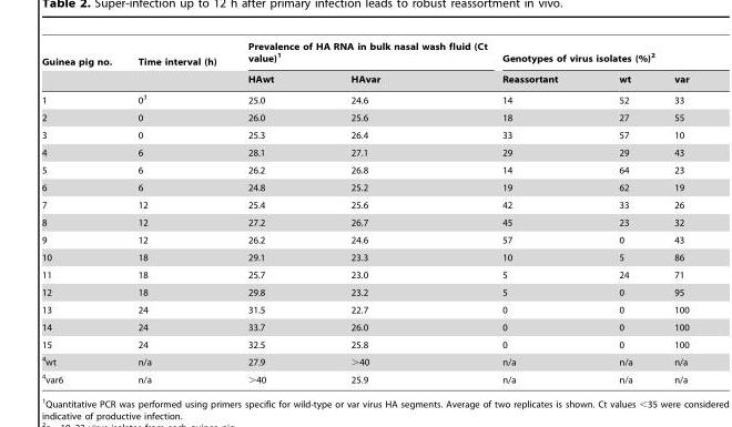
<table><thead><tr><td rowspan="2">Guinea pig no.</td><td rowspan="2">Time interval (h)</td><td colspan="2">Prevalence of HA RNA in bulk nasal wash fluid (Ct value)<sup>1</sup></td><td colspan="3">Genotypes of virus isolates (%)<sup>2</sup></td></tr><tr><td>HAwt</td><td>HAvar</td><td>Reassortant</td><td>wt</td><td>var</td></tr></thead><tbody><tr><td>1</td><td>0<sup>3</sup></td><td>25.0</td><td>24.6</td><td>14</td><td>52</td><td>33</td></tr><tr><td>2</td><td>0</td><td>26.0</td><td>25.6</td><td>18</td><td>27</td><td>55</td></tr><tr><td>3</td><td>0</td><td>25.3</td><td>26.4</td><td>33</td><td>57</td><td>10</td></tr><tr><td>4</td><td>6</td><td>28.1</td><td>27.1</td><td>29</td><td>29</td><td>43</td></tr><tr><td>5</td><td>6</td><td>26.2</td><td>26.8</td><td>14</td><td>64</td><td>23</td></tr><tr><td>6</td><td>6</td><td>24.8</td><td>25.2</td><td>19</td><td>62</td><td>19</td></tr><tr><td>7</td><td>12</td><td>25.4</td><td>25.6</td><td>42</td><td>33</td><td>26</td></tr><tr><td>8</td><td>12</td><td>27.2</td><td>26.7</td><td>45</td><td>23</td><td>32</td></tr><tr><td>9</td><td>12</td><td>26.2</td><td>24.6</td><td>57</td><td>0</td><td>43</td></tr><tr><td>10</td><td>18</td><td>29.1</td><td>23.3</td><td>10</td><td>5</td><td>86</td></tr><tr><td>11</td><td>18</td><td>25.7</td><td>23.0</td><td>5</td><td>24</td><td>71</td></tr><tr><td>12</td><td>18</td><td>29.8</td><td>23.2</td><td>5</td><td>0</td><td>95</td></tr><tr><td>13</td><td>24</td><td>31.5</td><td>22.7</td><td>0</td><td>0</td><td>100</td></tr><tr><td>14</td><td>24</td><td>33.7</td><td>26.0</td><td>0</td><td>0</td><td>100</td></tr><tr><td>15</td><td>24</td><td>32.5</td><td>25.8</td><td>0</td><td>0</td><td>100</td></tr><tr><td>4wt</td><td>n/a</td><td>27.9</td><td>&gt;40</td><td>n/a</td><td>n/a</td><td>n/a</td></tr><tr><td>4var6</td><td>n/a</td><td>&gt;40</td><td>25.9</td><td>n/a</td><td>n/a</td><td>n/a</td></tr></tbody></table>